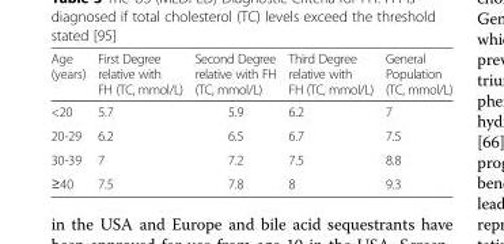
<table><thead><tr><td>Age (years)</td><td>First Degree relative with FH (TC, mmol/L)</td><td>Second Degree relative with FH (TC, mmol/L)</td><td>Third Degree relative with FH (TC, mmol/L)</td><td>General Population (TC, mmol/L)</td></tr></thead><tbody><tr><td>&lt;20</td><td>5.7</td><td>5.9</td><td>6.2</td><td>7</td></tr><tr><td>20-29</td><td>6.2</td><td>6.5</td><td>6.7</td><td>7.5</td></tr><tr><td>30-39</td><td>7</td><td>7.2</td><td>7.5</td><td>8.8</td></tr><tr><td>≥40</td><td>7.5</td><td>7.8</td><td>8</td><td>9.3</td></tr></tbody></table>